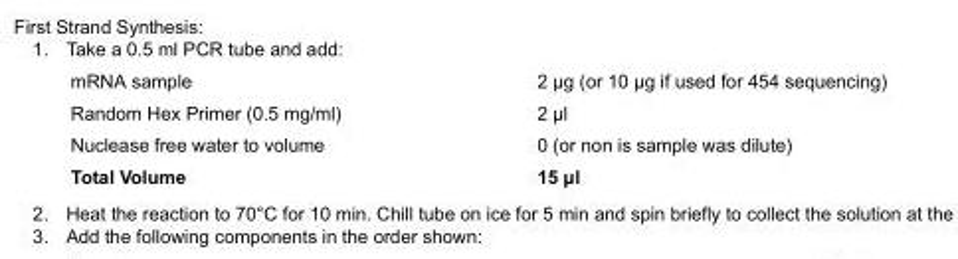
<table><tbody><tr><td>mRNA sample</td><td>2 μg (or 10 μg if used for 454 sequencing)</td></tr><tr><td>Random Hex Primer (0.5 mg/ml)</td><td>2 μl</td></tr><tr><td>Nuclease free water to volume</td><td>0 (or non is sample was dilute)</td></tr><tr><td>Total Volume</td><td>15 μl</td></tr></tbody></table>